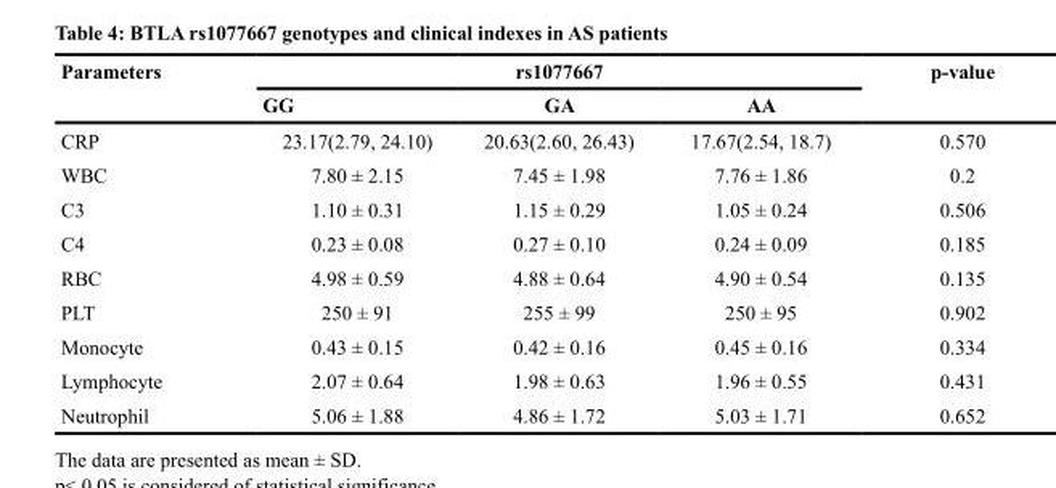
<table><thead><tr><td rowspan="2">Parameters</td><td colspan="3">rs1077667</td><td rowspan="2">p-value</td></tr><tr><td>GG</td><td>GA</td><td>AA</td></tr></thead><tbody><tr><td>CRP</td><td>23.17(2.79, 24.10)</td><td>20.63(2.60, 26.43)</td><td>17.67(2.54, 18.7)</td><td>0.570</td></tr><tr><td>WBC</td><td>7.80 ± 2.15</td><td>7.45 ± 1.98</td><td>7.76 ± 1.86</td><td>0.2</td></tr><tr><td>C3</td><td>1.10 ± 0.31</td><td>1.15 ± 0.29</td><td>1.05 ± 0.24</td><td>0.506</td></tr><tr><td>C4</td><td>0.23 ± 0.08</td><td>0.27 ± 0.10</td><td>0.24 ± 0.09</td><td>0.185</td></tr><tr><td>RBC</td><td>4.98 ± 0.59</td><td>4.88 ± 0.64</td><td>4.90 ± 0.54</td><td>0.135</td></tr><tr><td>PLT</td><td>250 ± 91</td><td>255 ± 99</td><td>250 ± 95</td><td>0.902</td></tr><tr><td>Monocyte</td><td>0.43 ± 0.15</td><td>0.42 ± 0.16</td><td>0.45 ± 0.16</td><td>0.334</td></tr><tr><td>Lymphocyte</td><td>2.07 ± 0.64</td><td>1.98 ± 0.63</td><td>1.96 ± 0.55</td><td>0.431</td></tr><tr><td>Neutrophil</td><td>5.06 ± 1.88</td><td>4.86 ± 1.72</td><td>5.03 ± 1.71</td><td>0.652</td></tr></tbody></table>